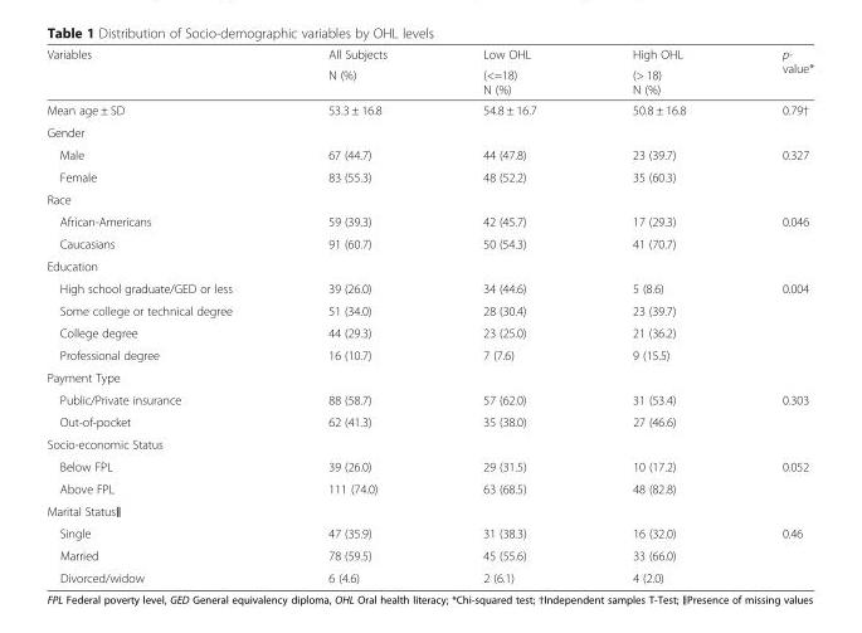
<table><thead><tr><td rowspan="2">Variables</td><td rowspan="2">All Subjects N (%)</td><td rowspan="2">Low OHL (&lt;=18) N (%)</td><td rowspan="2">High OHL (&gt; 18) N (%)</td><td rowspan="2">p- value*</td></tr><tr></tr></thead><tbody><tr><td>Mean age ± SD</td><td>53.3 ± 16.8</td><td>54.8 ± 16.7</td><td>50.8 ± 16.8</td><td>0.79†</td></tr><tr><td colspan="5">Gender</td></tr><tr><td>Male</td><td>67 (44.7)</td><td>44 (47.8)</td><td>23 (39.7)</td><td rowspan="2">0.327</td></tr><tr><td>Female</td><td>83 (55.3)</td><td>48 (52.2)</td><td>35 (60.3)</td></tr><tr><td colspan="5">Race</td></tr><tr><td>African-Americans</td><td>59 (39.3)</td><td>42 (45.7)</td><td>17 (29.3)</td><td rowspan="2">0.046</td></tr><tr><td>Caucasians</td><td>91 (60.7)</td><td>50 (54.3)</td><td>41 (70.7)</td></tr><tr><td colspan="5">Education</td></tr><tr><td>High school graduate/GED or less</td><td>39 (26.0)</td><td>34 (44.6)</td><td>5 (8.6)</td><td rowspan="4">0.004</td></tr><tr><td>Some college or technical degree</td><td>51 (34.0)</td><td>28 (30.4)</td><td>23 (39.7)</td></tr><tr><td>College degree</td><td>44 (29.3)</td><td>23 (25.0)</td><td>21 (36.2)</td></tr><tr><td>Professional degree</td><td>16 (10.7)</td><td>7 (7.6)</td><td>9 (15.5)</td></tr><tr><td colspan="5">Payment Type</td></tr><tr><td>Public/Private insurance</td><td>88 (58.7)</td><td>57 (62.0)</td><td>31 (53.4)</td><td rowspan="2">0.303</td></tr><tr><td>Out-of-pocket</td><td>62 (41.3)</td><td>35 (38.0)</td><td>27 (46.6)</td></tr><tr><td colspan="5">Socio-economic Status</td></tr><tr><td>Below FPL</td><td>39 (26.0)</td><td>29 (31.5)</td><td>10 (17.2)</td><td rowspan="2">0.052</td></tr><tr><td>Above FPL</td><td>111 (74.0)</td><td>63 (68.5)</td><td>48 (82.8)</td></tr><tr><td colspan="5">Marital Status‖</td></tr><tr><td>Single</td><td>47 (35.9)</td><td>31 (38.3)</td><td>16 (32.0)</td><td rowspan="3">0.46</td></tr><tr><td>Married</td><td>78 (59.5)</td><td>45 (55.6)</td><td>33 (66.0)</td></tr><tr><td>Divorced/widow</td><td>6 (4.6)</td><td>2 (6.1)</td><td>4 (2.0)</td></tr></tbody></table>